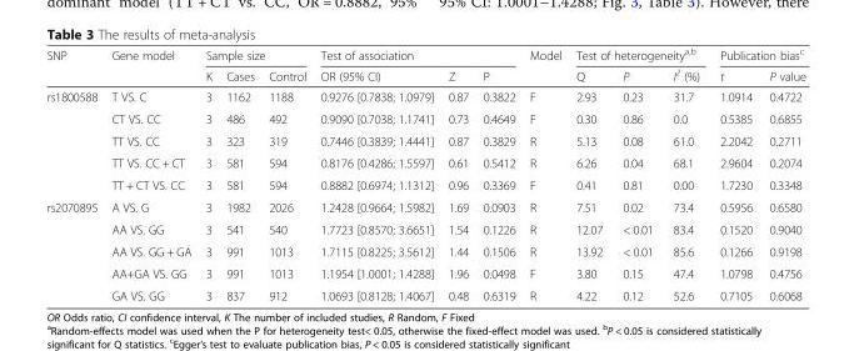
<table><thead><tr><td rowspan="2">SNP</td><td rowspan="2">Gene model</td><td colspan="3">Sample size</td><td colspan="3">Test of association</td><td rowspan="2">Model</td><td colspan="3">Test of heterogeneity<sup>a,b</sup></td><td colspan="2">Publication bias<sup>c</sup></td></tr><tr><td>K</td><td>Cases</td><td>Control</td><td>OR (95% CI)</td><td>Z</td><td>P</td><td>Q</td><td>P</td><td>I<sup>2</sup> (%)</td><td>t</td><td>P value</td></tr></thead><tbody><tr><td rowspan="5">rs1800588</td><td>T VS. C</td><td>3</td><td>1162</td><td>1188</td><td>0.9276 [0.7838; 1.0979]</td><td>0.87</td><td>0.3822</td><td>F</td><td>2.93</td><td>0.23</td><td>31.7</td><td>1.0914</td><td>0.4722</td></tr><tr><td>CT VS. CC</td><td>3</td><td>486</td><td>492</td><td>0.9090 [0.7038; 1.1741]</td><td>0.73</td><td>0.4649</td><td>F</td><td>0.30</td><td>0.86</td><td>0.0</td><td>0.5385</td><td>0.6855</td></tr><tr><td>TT VS. CC</td><td>3</td><td>323</td><td>319</td><td>0.7446 [0.3839; 1.4441]</td><td>0.87</td><td>0.3829</td><td>R</td><td>5.13</td><td>0.08</td><td>61.0</td><td>2.2042</td><td>0.2711</td></tr><tr><td>TT VS. CC + CT</td><td>3</td><td>581</td><td>594</td><td>0.8176 [0.4286; 1.5597]</td><td>0.61</td><td>0.5412</td><td>R</td><td>6.26</td><td>0.04</td><td>68.1</td><td>2.9604</td><td>0.2074</td></tr><tr><td>TT + CT VS. CC</td><td>3</td><td>581</td><td>594</td><td>0.8882 [0.6974; 1.1312]</td><td>0.96</td><td>0.3369</td><td>F</td><td>0.41</td><td>0.81</td><td>0.00</td><td>1.7230</td><td>0.3348</td></tr><tr><td rowspan="5">rs2070895</td><td>A VS. G</td><td>3</td><td>1982</td><td>2026</td><td>1.2428 [0.9664; 1.5982]</td><td>1.69</td><td>0.0903</td><td>R</td><td>7.51</td><td>0.02</td><td>73.4</td><td>0.5956</td><td>0.6580</td></tr><tr><td>AA VS. GG</td><td>3</td><td>541</td><td>540</td><td>1.7723 [0.8570; 3.6651]</td><td>1.54</td><td>0.1226</td><td>R</td><td>12.07</td><td>&lt; 0.01</td><td>83.4</td><td>0.1520</td><td>0.9040</td></tr><tr><td>AA VS. GG + GA</td><td>3</td><td>991</td><td>1013</td><td>1.7115 [0.8225; 3.5612]</td><td>1.44</td><td>0.1506</td><td>R</td><td>13.92</td><td>&lt; 0.01</td><td>85.6</td><td>0.1266</td><td>0.9198</td></tr><tr><td>AA+GA VS. GG</td><td>3</td><td>991</td><td>1013</td><td>1.1954 [1.0001; 1.4288]</td><td>1.96</td><td>0.0498</td><td>F</td><td>3.80</td><td>0.15</td><td>47.4</td><td>1.0798</td><td>0.4756</td></tr><tr><td>GA VS. GG</td><td>3</td><td>837</td><td>912</td><td>1.0693 [0.8128; 1.4067]</td><td>0.48</td><td>0.6319</td><td>R</td><td>4.22</td><td>0.12</td><td>52.6</td><td>0.7105</td><td>0.6068</td></tr></tbody></table>